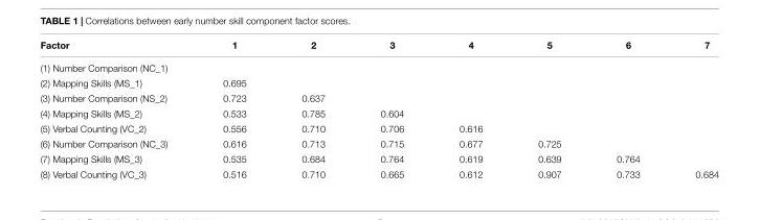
<table><thead><tr><td>Factor</td><td>1</td><td>2</td><td>3</td><td>4</td><td>5</td><td>6</td><td>7</td></tr></thead><tbody><tr><td colspan="8">(1) Number Comparison (NC_1)</td></tr><tr><td>(2) Mapping Skills (MS_1)</td><td>0.695</td><td></td><td></td><td></td><td></td><td></td><td></td></tr><tr><td>(3) Number Comparison (NS_2)</td><td>0.723</td><td>0.637</td><td></td><td></td><td></td><td></td><td></td></tr><tr><td>(4) Mapping Skills (MS_2)</td><td>0.533</td><td>0.785</td><td>0.604</td><td></td><td></td><td></td><td></td></tr><tr><td>(5) Verbal Counting (VC_2)</td><td>0.556</td><td>0.710</td><td>0.706</td><td>0.616</td><td></td><td></td><td></td></tr><tr><td>(6) Number Comparison (NC_3)</td><td>0.616</td><td>0.713</td><td>0.715</td><td>0.677</td><td>0.725</td><td></td><td></td></tr><tr><td>(7) Mapping Skills (MS_3)</td><td>0.535</td><td>0.684</td><td>0.764</td><td>0.619</td><td>0.639</td><td>0.764</td><td></td></tr><tr><td>(8) Verbal Counting (VC_3)</td><td>0.516</td><td>0.710</td><td>0.665</td><td>0.612</td><td>0.907</td><td>0.733</td><td>0.684</td></tr></tbody></table>